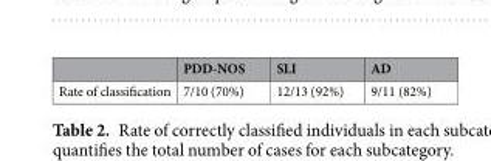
<table><thead><tr><td></td><td>PDD-NOS</td><td>SLI</td><td>AD</td></tr></thead><tbody><tr><td>Rate of classification</td><td>7/10 (70%)</td><td>12/13 (92%)</td><td>9/11 (82%)</td></tr></tbody></table>